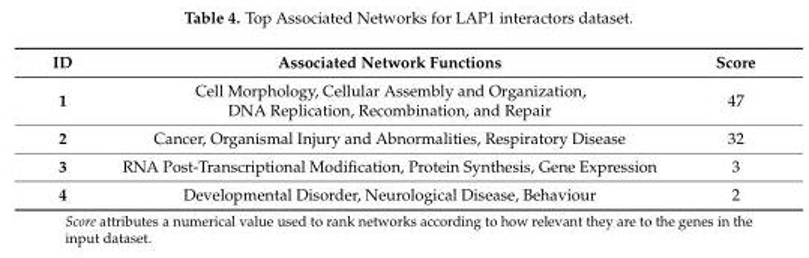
<table><thead><tr><td>ID</td><td>Associated Network Functions</td><td>Score</td></tr></thead><tbody><tr><td>1</td><td>Cell Morphology, Cellular Assembly and Organization, DNA Replication, Recombination, and Repair</td><td>47</td></tr><tr><td>2</td><td>Cancer, Organismal Injury and Abnormalities, Respiratory Disease</td><td>32</td></tr><tr><td>3</td><td>RNA Post-Transcriptional Modification, Protein Synthesis, Gene Expression</td><td>3</td></tr><tr><td>4</td><td>Developmental Disorder, Neurological Disease, Behaviour</td><td>2</td></tr></tbody></table>